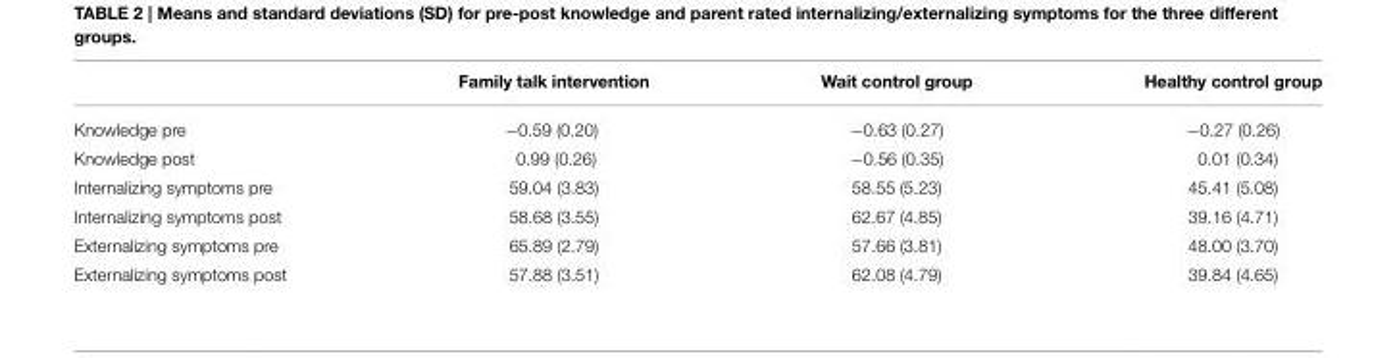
<table><thead><tr><td></td><td>Family talk intervention</td><td>Wait control group</td><td>Healthy control group</td></tr></thead><tbody><tr><td>Knowledge pre</td><td>−0.59 (0.20)</td><td>−0.63 (0.27)</td><td>−0.27 (0.26)</td></tr><tr><td>Knowledge post</td><td>0.99 (0.26)</td><td>−0.56 (0.35)</td><td>0.01 (0.34)</td></tr><tr><td>Internalizing symptoms pre</td><td>59.04 (3.83)</td><td>58.55 (5.23)</td><td>45.41 (5.08)</td></tr><tr><td>Internalizing symptoms post</td><td>58.68 (3.55)</td><td>62.67 (4.85)</td><td>39.16 (4.71)</td></tr><tr><td>Externalizing symptoms pre</td><td>65.89 (2.79)</td><td>57.66 (3.81)</td><td>48.00 (3.70)</td></tr><tr><td>Externalizing symptoms post</td><td>57.88 (3.51)</td><td>62.08 (4.79)</td><td>39.84 (4.65)</td></tr></tbody></table>